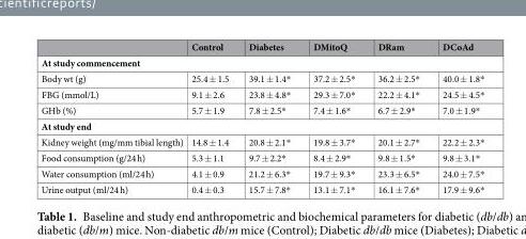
<table><thead><tr><td></td><td>Control</td><td>Diabetes</td><td>DMitoQ</td><td>DRam</td><td>DCoAd</td></tr></thead><tbody><tr><td colspan="6">At study commencement</td></tr><tr><td>Body wt (g)</td><td>25.4 ± 1.5</td><td>39.1 ± 1.4*</td><td>37.2 ± 2.5*</td><td>36.2 ± 2.5*</td><td>40.0 ± 1.8*</td></tr><tr><td>FBG (mmol/L)</td><td>9.1 ± 2.6</td><td>23.8 ± 4.8*</td><td>29.3 ± 7.0*</td><td>22.2 ± 4.1*</td><td>24.5 ± 4.5*</td></tr><tr><td>GHb (%)</td><td>5.7 ± 1.9</td><td>7.8 ± 2.5*</td><td>7.4 ± 1.6*</td><td>6.7 ± 2.9*</td><td>7.0 ± 1.9*</td></tr><tr><td colspan="6">At study end</td></tr><tr><td>Kidney weight (mg/mm tibial length)</td><td>14.8 ± 1.4</td><td>20.8 ± 2.1*</td><td>19.8 ± 3.7*</td><td>20.1 ± 2.7*</td><td>22.2 ± 2.3*</td></tr><tr><td>Food consumption (g/24 h)</td><td>5.3 ± 1.1</td><td>9.7 ± 2.2*</td><td>8.4 ± 2.9*</td><td>9.8 ± 1.5*</td><td>9.8 ± 3.1*</td></tr><tr><td>Water consumption (ml/24 h)</td><td>4.1 ± 0.9</td><td>21.2 ± 6.3*</td><td>19.7 ± 9.3*</td><td>23.3 ± 6.5*</td><td>24.0 ± 7.5*</td></tr><tr><td>Urine output (ml/24 h)</td><td>0.4 ± 0.3</td><td>15.7 ± 7.8*</td><td>13.1 ± 7.1*</td><td>16.1 ± 7.6*</td><td>17.9 ± 9.6*</td></tr></tbody></table>